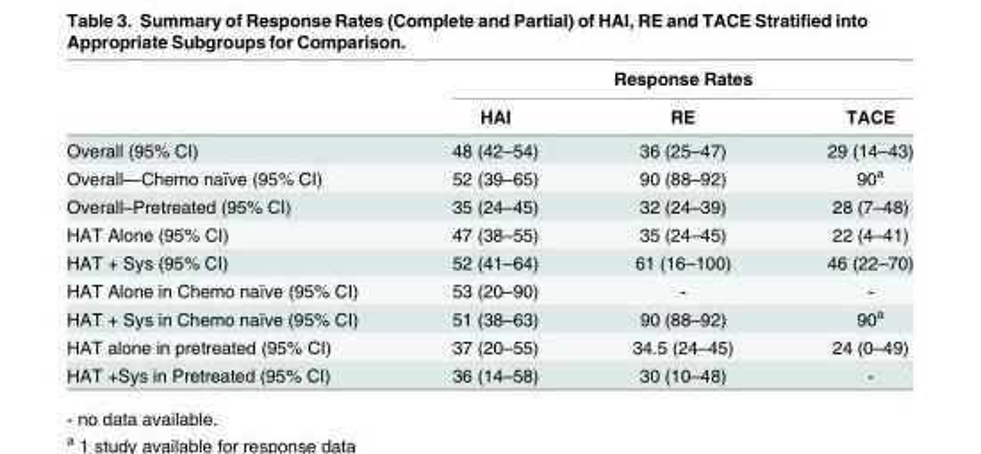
<table><thead><tr><td rowspan="2"></td><td colspan="3">Response Rates</td></tr><tr><td>HAI</td><td>RE</td><td>TACE</td></tr></thead><tbody><tr><td>Overall (95% CI)</td><td>48 (42–54)</td><td>36 (25–47)</td><td>29 (14–43)</td></tr><tr><td>Overall—Chemo naïve (95% CI)</td><td>52 (39–65)</td><td>90 (88–92)</td><td>90<sup>a</sup></td></tr><tr><td>Overall–Pretreated (95% CI)</td><td>35 (24–45)</td><td>32 (24–39)</td><td>28 (7–48)</td></tr><tr><td>HAT Alone (95% CI)</td><td>47 (38–55)</td><td>35 (24–45)</td><td>22 (4–41)</td></tr><tr><td>HAT + Sys (95% CI)</td><td>52 (41–64)</td><td>61 (16–100)</td><td>46 (22–70)</td></tr><tr><td>HAT Alone in Chemo naïve (95% CI)</td><td>53 (20–90)</td><td>-</td><td>-</td></tr><tr><td>HAT + Sys in Chemo naïve (95% CI)</td><td>51 (38–63)</td><td>90 (88–92)</td><td>90<sup>a</sup></td></tr><tr><td>HAT alone in pretreated (95% CI)</td><td>37 (20–55)</td><td>34.5 (24–45)</td><td>24 (0–49)</td></tr><tr><td>HAT +Sys in Pretreated (95% CI)</td><td>36 (14–58)</td><td>30 (10–48)</td><td>-</td></tr></tbody></table>